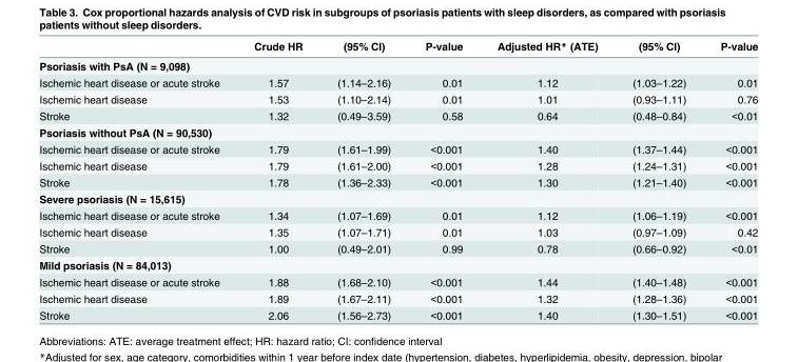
<table><thead><tr><td></td><td>Crude HR</td><td>(95% CI)</td><td>P-value</td><td>Adjusted HR* (ATE)</td><td>(95% CI)</td><td>P-value</td></tr></thead><tbody><tr><td colspan="7">Psoriasis with PsA (N = 9,098)</td></tr><tr><td>Ischemic heart disease or acute stroke</td><td>1.57</td><td>(1.14–2.16)</td><td>0.01</td><td>1.12</td><td>(1.03–1.22)</td><td>0.01</td></tr><tr><td>Ischemic heart disease</td><td>1.53</td><td>(1.10–2.14)</td><td>0.01</td><td>1.01</td><td>(0.93–1.11)</td><td>0.76</td></tr><tr><td>Stroke</td><td>1.32</td><td>(0.49–3.59)</td><td>0.58</td><td>0.64</td><td>(0.48–0.84)</td><td>&lt;0.01</td></tr><tr><td colspan="7">Psoriasis without PsA (N = 90,530)</td></tr><tr><td>Ischemic heart disease or acute stroke</td><td>1.79</td><td>(1.61–1.99)</td><td>&lt;0.001</td><td>1.40</td><td>(1.37–1.44)</td><td>&lt;0.001</td></tr><tr><td>Ischemic heart disease</td><td>1.79</td><td>(1.61–2.00)</td><td>&lt;0.001</td><td>1.28</td><td>(1.24–1.31)</td><td>&lt;0.001</td></tr><tr><td>Stroke</td><td>1.78</td><td>(1.36–2.33)</td><td>&lt;0.001</td><td>1.30</td><td>(1.21–1.40)</td><td>&lt;0.001</td></tr><tr><td colspan="7">Severe psoriasis (N = 15,615)</td></tr><tr><td>Ischemic heart disease or acute stroke</td><td>1.34</td><td>(1.07–1.69)</td><td>0.01</td><td>1.12</td><td>(1.06–1.19)</td><td>&lt;0.001</td></tr><tr><td>Ischemic heart disease</td><td>1.35</td><td>(1.07–1.71)</td><td>0.01</td><td>1.03</td><td>(0.97–1.09)</td><td>0.42</td></tr><tr><td>Stroke</td><td>1.00</td><td>(0.49–2.01)</td><td>0.99</td><td>0.78</td><td>(0.66–0.92)</td><td>&lt;0.01</td></tr><tr><td colspan="7">Mild psoriasis (N = 84,013)</td></tr><tr><td>Ischemic heart disease or acute stroke</td><td>1.88</td><td>(1.68–2.10)</td><td>&lt;0.001</td><td>1.44</td><td>(1.40–1.48)</td><td>&lt;0.001</td></tr><tr><td>Ischemic heart disease</td><td>1.89</td><td>(1.67–2.11)</td><td>&lt;0.001</td><td>1.32</td><td>(1.28–1.36)</td><td>&lt;0.001</td></tr><tr><td>Stroke</td><td>2.06</td><td>(1.56–2.73)</td><td>&lt;0.001</td><td>1.40</td><td>(1.30–1.51)</td><td>&lt;0.001</td></tr></tbody></table>